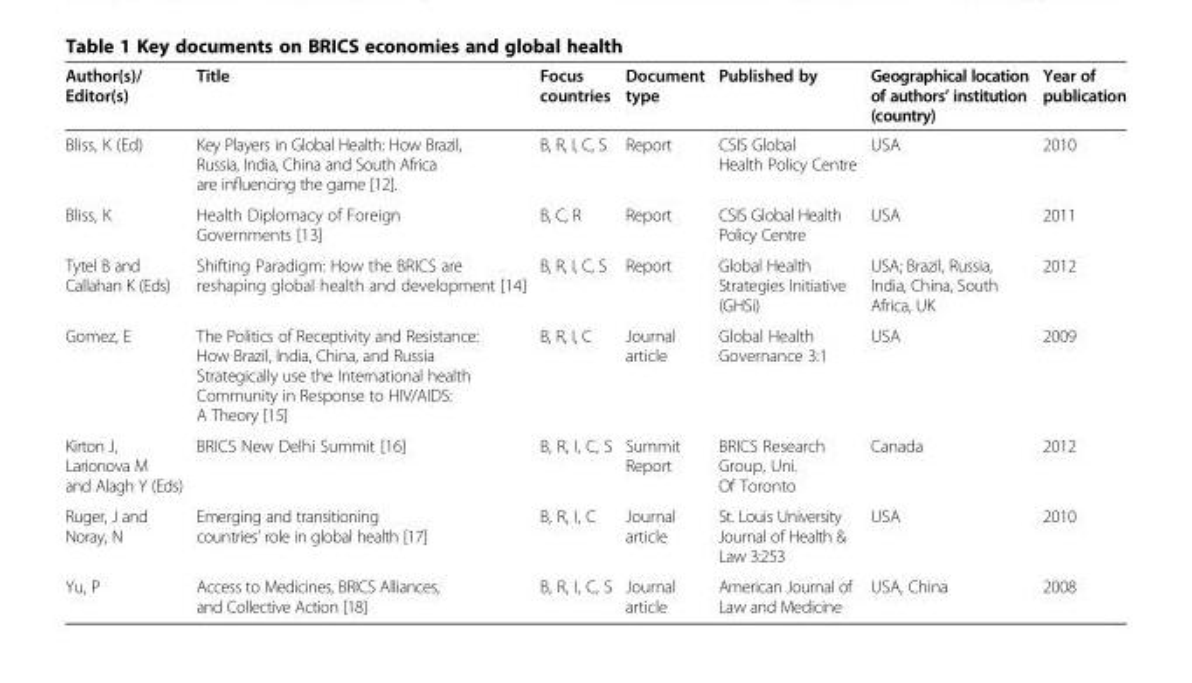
<table><thead><tr><td>Author(s)/ Editor(s)</td><td>Title</td><td>Focus countries</td><td>Document type</td><td>Published by</td><td>Geographical location of authors’ institution (country)</td><td>Year of publication</td></tr></thead><tbody><tr><td>Bliss, K (Ed)</td><td>Key Players in Global Health: How Brazil, Russia, India, China and South Africa are influencing the game [12].</td><td>B, R, I, C, S</td><td>Report</td><td>CSIS Global Health Policy Centre</td><td>USA</td><td>2010</td></tr><tr><td>Bliss, K</td><td>Health Diplomacy of Foreign Governments [13]</td><td>B, C, R</td><td>Report</td><td>CSIS Global Health Policy Centre</td><td>USA</td><td>2011</td></tr><tr><td>Tytel B and Callahan K (Eds)</td><td>Shifting Paradigm: How the BRICS are reshaping global health and development [14]</td><td>B, R, I, C, S</td><td>Report</td><td>Global Health Strategies Initiative (GHSi)</td><td>USA; Brazil, Russia, India, China, South Africa, UK</td><td>2012</td></tr><tr><td>Gomez, E</td><td>The Politics of Receptivity and Resistance: How Brazil, India, China, and Russia Strategically use the International health Community in Response to HIV/AIDS: A Theory [15]</td><td>B, R, I, C</td><td>Journal article</td><td>Global Health Governance 3:1</td><td>USA</td><td>2009</td></tr><tr><td>Kirton J, Larionova M and Alagh Y (Eds)</td><td>BRICS New Delhi Summit [16]</td><td>B, R, I, C, S</td><td>Summit Report</td><td>BRICS Research Group, Uni. Of Toronto</td><td>Canada</td><td>2012</td></tr><tr><td>Ruger, J and Noray, N</td><td>Emerging and transitioning countries’ role in global health [17]</td><td>B, R, I, C</td><td>Journal article</td><td>St. Louis University Journal of Health &amp; Law 3:253</td><td>USA</td><td>2010</td></tr><tr><td>Yu, P</td><td>Access to Medicines, BRICS Alliances, and Collective Action [18]</td><td>B, R, I, C, S</td><td>Journal article</td><td>American Journal of Law and Medicine</td><td>USA, China</td><td>2008</td></tr></tbody></table>